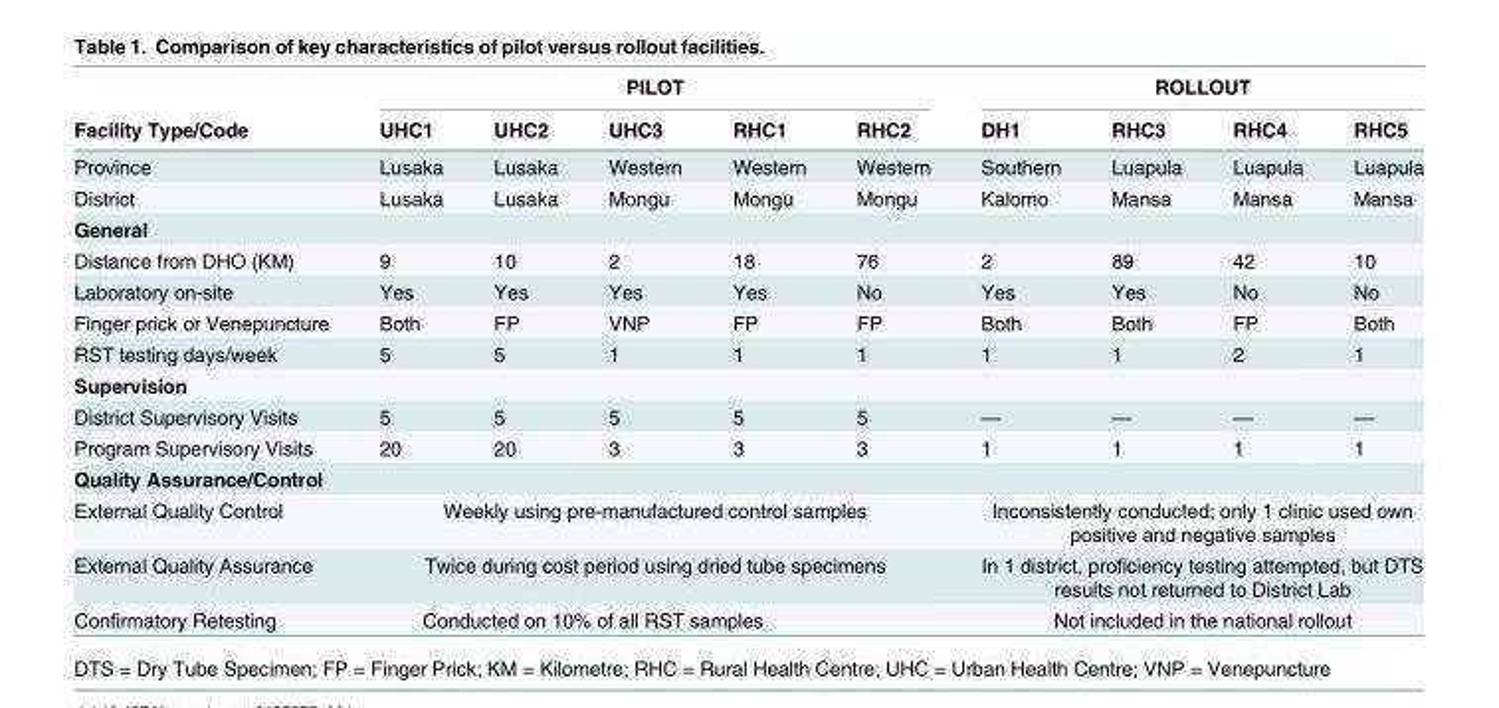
<table><thead><tr><td rowspan="2">Facility Type/Code</td><td colspan="5">PILOT</td><td colspan="4">ROLLOUT</td></tr><tr><td>UHC1</td><td>UHC2</td><td>UHC3</td><td>RHC1</td><td>RHC2</td><td>DH1</td><td>RHC3</td><td>RHC4</td><td>RHC5</td></tr></thead><tbody><tr><td>Province</td><td>Lusaka</td><td>Lusaka</td><td>Western</td><td>Western</td><td>Western</td><td>Southern</td><td>Luapula</td><td>Luapula</td><td>Luapula</td></tr><tr><td>District</td><td>Lusaka</td><td>Lusaka</td><td>Mongu</td><td>Mongu</td><td>Mongu</td><td>Kalomo</td><td>Mansa</td><td>Mansa</td><td>Mansa</td></tr><tr><td colspan="10">General</td></tr><tr><td>Distance from DHO (KM)</td><td>9</td><td>10</td><td>2</td><td>18</td><td>76</td><td>2</td><td>89</td><td>42</td><td>10</td></tr><tr><td>Laboratory on-site</td><td>Yes</td><td>Yes</td><td>Yes</td><td>Yes</td><td>No</td><td>Yes</td><td>Yes</td><td>No</td><td>No</td></tr><tr><td>Finger prick or Venepuncture</td><td>Both</td><td>FP</td><td>VNP</td><td>FP</td><td>FP</td><td>Both</td><td>Both</td><td>FP</td><td>Both</td></tr><tr><td>RST testing days/week</td><td>5</td><td>5</td><td>1</td><td>1</td><td>1</td><td>1</td><td>1</td><td>2</td><td>1</td></tr><tr><td colspan="10">Supervision</td></tr><tr><td>District Supervisory Visits</td><td>5</td><td>5</td><td>5</td><td>5</td><td>5</td><td>—</td><td>—</td><td>—</td><td>—</td></tr><tr><td>Program Supervisory Visits</td><td>20</td><td>20</td><td>3</td><td>3</td><td>3</td><td>1</td><td>1</td><td>1</td><td>1</td></tr><tr><td colspan="10">Quality Assurance/Control</td></tr><tr><td>External Quality Control</td><td colspan="5">Weekly using pre-manufactured control samples</td><td colspan="4">Inconsistently conducted; only 1 clinic used own positive and negative samples</td></tr><tr><td>External Quality Assurance</td><td colspan="5">Twice during cost period using dried tube specimens</td><td colspan="4">In 1 district, proficiency testing attempted, but DTS results not returned to District Lab</td></tr><tr><td>Confirmatory Retesting</td><td colspan="4">Conducted on 10% of all RST samples</td><td></td><td colspan="4">Not included in the national rollout</td></tr></tbody></table>